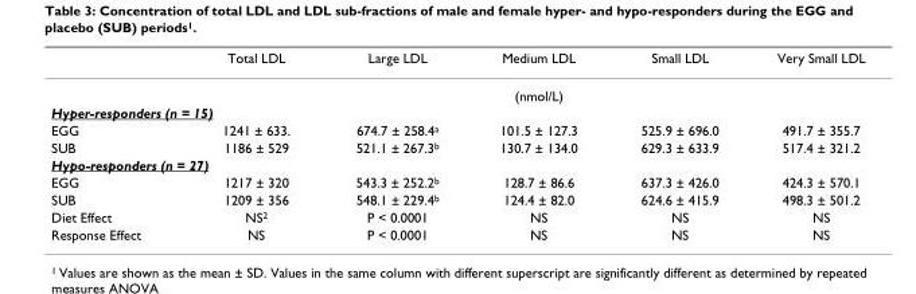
<table><thead><tr><td></td><td>Total LDL</td><td>Large LDL</td><td>Medium LDL</td><td>Small LDL</td><td>Very Small LDL</td></tr></thead><tbody><tr><td></td><td colspan="5">(nmol/L)</td></tr><tr><td colspan="6">Hyper-responders (n = 15)</td></tr><tr><td>EGG</td><td>1241 ± 633.</td><td>674.7 ± 258.4<sup>a</sup></td><td>101.5 ± 127.3</td><td>525.9 ± 696.0</td><td>491.7 ± 355.7</td></tr><tr><td>SUB</td><td>1186 ± 529</td><td>521.1 ± 267.3<sup>b</sup></td><td>130.7 ± 134.0</td><td>629.3 ± 633.9</td><td>517.4 ± 321.2</td></tr><tr><td colspan="6">Hypo-responders (n = 27)</td></tr><tr><td>EGG</td><td>1217 ± 320</td><td>543.3 ± 252.2<sup>b</sup></td><td>128.7 ± 86.6</td><td>637.3 ± 426.0</td><td>424.3 ± 570.1</td></tr><tr><td>SUB</td><td>1209 ± 356</td><td>548.1 ± 229.4<sup>b</sup></td><td>124.4 ± 82.0</td><td>624.6 ± 415.9</td><td>498.3 ± 501.2</td></tr><tr><td>Diet Effect</td><td>NS<sup>2</sup></td><td>P &lt; 0.0001</td><td>NS</td><td>NS</td><td>NS</td></tr><tr><td>Response Effect</td><td>NS</td><td>P &lt; 0.0001</td><td>NS</td><td>NS</td><td>NS</td></tr></tbody></table>